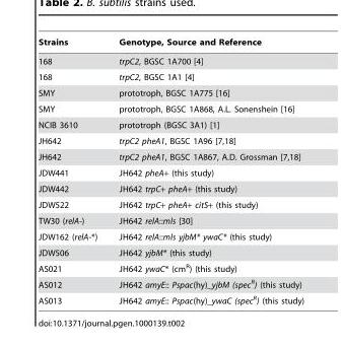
<table><thead><tr><td>Strains</td><td>Genotype, Source and Reference</td></tr></thead><tbody><tr><td>168</td><td>trpC2, BGSC 1A700 [4]</td></tr><tr><td>168</td><td>trpC2, BGSC 1A1 [4]</td></tr><tr><td>SMY</td><td>prototroph, BGSC 1A775 [16]</td></tr><tr><td>SMY</td><td>prototroph, BGSC 1A868, A.L. Sonenshein [16]</td></tr><tr><td>NCIB 3610</td><td>prototroph (BGSC 3A1) [1]</td></tr><tr><td>JH642</td><td>trpC2 pheA1, BGSC 1A96 [7,18]</td></tr><tr><td>JH642</td><td>trpC2 pheA1, BGSC 1A867, A.D. Grossman [7,18]</td></tr><tr><td>JDW441</td><td>JH642 pheA+ (this study)</td></tr><tr><td>JDW442</td><td>JH642 trpC+ pheA+ (this study)</td></tr><tr><td>JDW522</td><td>JH642 trpC+ pheA+ citS+ (this study)</td></tr><tr><td>TW30 (relA-)</td><td>JH642 relA::mls [30]</td></tr><tr><td>JDW162 (relA-*)</td><td>JH642 relA::mls yjbM* ywaC* (this study)</td></tr><tr><td>JDW506</td><td>JH642 yjbM* (this study)</td></tr><tr><td>AS021</td><td>JH642 ywaC* (cm<sup>R</sup>) (this study)</td></tr><tr><td>AS012</td><td>JH642 amyE:: Pspac(hy)_yjbM (spec<sup>R</sup>) (this study)</td></tr><tr><td>AS013</td><td>JH642 amyE:: Pspac(hy)_ywaC (spec<sup>R</sup>) (this study)</td></tr></tbody></table>